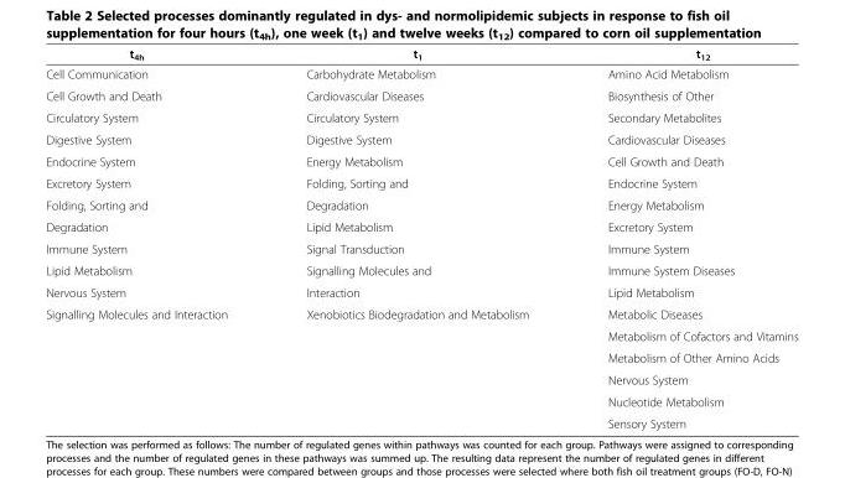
<table><thead><tr><td>t<sub>4h</sub></td><td>t<sub>1</sub></td><td>t<sub>12</sub></td></tr></thead><tbody><tr><td>Cell Communication</td><td>Carbohydrate Metabolism</td><td>Amino Acid Metabolism</td></tr><tr><td>Cell Growth and Death</td><td>Cardiovascular Diseases</td><td>Biosynthesis of Other</td></tr><tr><td>Circulatory System</td><td>Circulatory System</td><td>Secondary Metabolites</td></tr><tr><td>Digestive System</td><td>Digestive System</td><td>Cardiovascular Diseases</td></tr><tr><td>Endocrine System</td><td>Energy Metabolism</td><td>Cell Growth and Death</td></tr><tr><td>Excretory System</td><td>Folding, Sorting and</td><td>Endocrine System</td></tr><tr><td>Folding, Sorting and</td><td>Degradation</td><td>Energy Metabolism</td></tr><tr><td>Degradation</td><td>Lipid Metabolism</td><td>Excretory System</td></tr><tr><td>Immune System</td><td>Signal Transduction</td><td>Immune System</td></tr><tr><td>Lipid Metabolism</td><td>Signalling Molecules and</td><td>Immune System Diseases</td></tr><tr><td>Nervous System</td><td>Interaction</td><td>Lipid Metabolism</td></tr><tr><td rowspan="6">Signalling Molecules and Interaction</td><td>Xenobiotics Biodegradation and Metabolism</td><td>Metabolic Diseases</td></tr><tr><td></td><td>Metabolism of Cofactors and Vitamins</td></tr><tr><td></td><td>Metabolism of Other Amino Acids</td></tr><tr><td></td><td>Nervous System</td></tr><tr><td></td><td>Nucleotide Metabolism</td></tr><tr><td></td><td>Sensory System</td></tr></tbody></table>